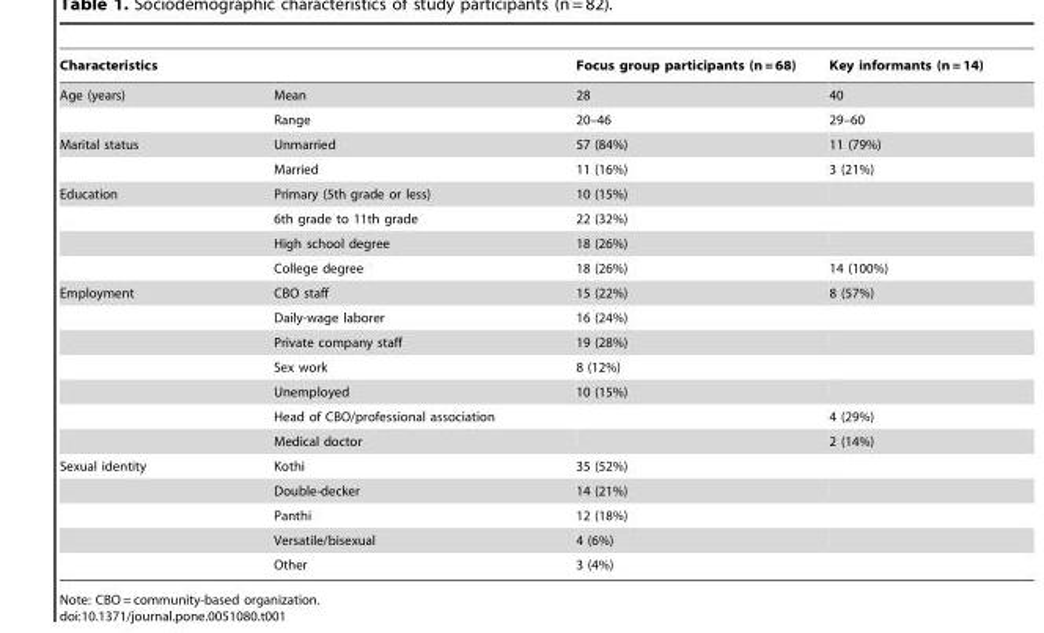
<table><thead><tr><td>Characteristics</td><td></td><td>Focus group participants (n = 68)</td><td>Key informants (n = 14)</td></tr></thead><tbody><tr><td rowspan="2">Age (years)</td><td>Mean</td><td>28</td><td>40</td></tr><tr><td>Range</td><td>20–46</td><td>29–60</td></tr><tr><td rowspan="2">Marital status</td><td>Unmarried</td><td>57 (84%)</td><td>11 (79%)</td></tr><tr><td>Married</td><td>11 (16%)</td><td>3 (21%)</td></tr><tr><td rowspan="4">Education</td><td>Primary (5th grade or less)</td><td>10 (15%)</td><td></td></tr><tr><td>6th grade to 11th grade</td><td>22 (32%)</td><td></td></tr><tr><td>High school degree</td><td>18 (26%)</td><td></td></tr><tr><td>College degree</td><td>18 (26%)</td><td>14 (100%)</td></tr><tr><td rowspan="7">Employment</td><td>CBO staff</td><td>15 (22%)</td><td>8 (57%)</td></tr><tr><td>Daily-wage laborer</td><td>16 (24%)</td><td></td></tr><tr><td>Private company staff</td><td>19 (28%)</td><td></td></tr><tr><td>Sex work</td><td>8 (12%)</td><td></td></tr><tr><td>Unemployed</td><td>10 (15%)</td><td></td></tr><tr><td>Head of CBO/professional association</td><td></td><td>4 (29%)</td></tr><tr><td>Medical doctor</td><td></td><td>2 (14%)</td></tr><tr><td rowspan="5">Sexual identity</td><td>Kothi</td><td>35 (52%)</td><td></td></tr><tr><td>Double-decker</td><td>14 (21%)</td><td></td></tr><tr><td>Panthi</td><td>12 (18%)</td><td></td></tr><tr><td>Versatile/bisexual</td><td>4 (6%)</td><td></td></tr><tr><td>Other</td><td>3 (4%)</td><td></td></tr></tbody></table>